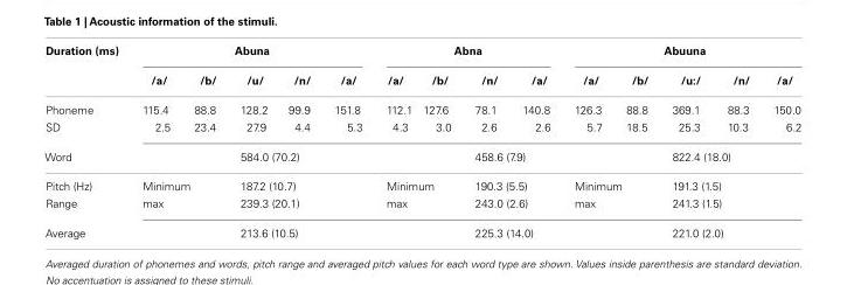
<table><thead><tr><td rowspan="2">Duration (ms)</td><td colspan="5">Abuna</td><td colspan="4">Abna</td><td colspan="5">Abuuna</td></tr><tr><td>/a/</td><td>/b/</td><td>/u/</td><td>/n/</td><td>/a/</td><td>/a/</td><td>/b/</td><td>/n/</td><td>/a/</td><td>/a/</td><td>/b/</td><td>/u:/</td><td>/n/</td><td>/a/</td></tr></thead><tbody><tr><td>Phoneme</td><td>115.4</td><td>88.8</td><td>128.2</td><td>99.9</td><td>151.8</td><td>112.1</td><td>127.6</td><td>78.1</td><td>140.8</td><td>126.3</td><td>88.8</td><td>369.1</td><td>88.3</td><td>150.0</td></tr><tr><td>SD</td><td>2.5</td><td>23.4</td><td>27.9</td><td>4.4</td><td>5.3</td><td>4.3</td><td>3.0</td><td>2.6</td><td>2.6</td><td>5.7</td><td>18.5</td><td>25.3</td><td>10.3</td><td>6.2</td></tr><tr><td>Word</td><td colspan="5">584.0 (70.2)</td><td colspan="4">458.6 (7.9)</td><td colspan="5">822.4 (18.0)</td></tr><tr><td>Pitch (Hz)</td><td colspan="2">Minimum</td><td colspan="3">187.2 (10.7)</td><td colspan="2">Minimum</td><td colspan="2">190.3 (5.5)</td><td colspan="2">Minimum</td><td colspan="2">191.3 (1.5)</td><td></td></tr><tr><td>Range</td><td colspan="2">max</td><td colspan="3">239.3 (20.1)</td><td colspan="2">max</td><td colspan="2">243.0 (2.6)</td><td colspan="2">max</td><td colspan="2">241.3 (1.5)</td><td></td></tr><tr><td>Average</td><td colspan="5">213.6 (10.5)</td><td colspan="4">225.3 (14.0)</td><td colspan="5">221.0 (2.0)</td></tr></tbody></table>